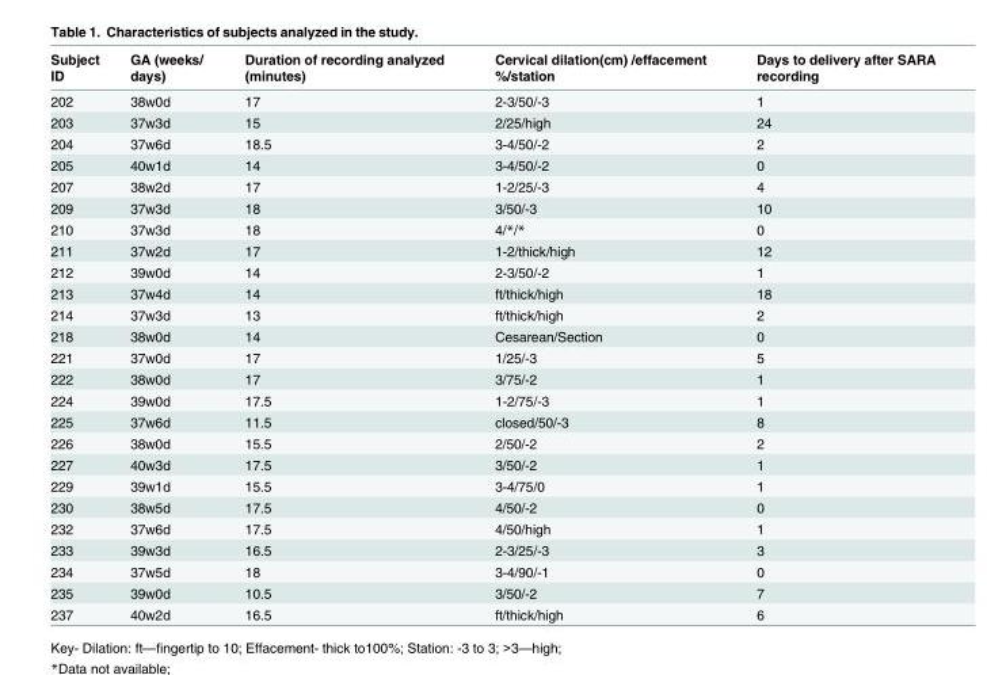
<table><thead><tr><td>Subject ID</td><td>GA (weeks/ days)</td><td>Duration of recording analyzed (minutes)</td><td>Cervical dilation(cm) /effacement %/station</td><td>Days to delivery after SARA recording</td></tr></thead><tbody><tr><td>202</td><td>38w0d</td><td>17</td><td>2-3/50/-3</td><td>1</td></tr><tr><td>203</td><td>37w3d</td><td>15</td><td>2/25/high</td><td>24</td></tr><tr><td>204</td><td>37w6d</td><td>18.5</td><td>3-4/50/-2</td><td>2</td></tr><tr><td>205</td><td>40w1d</td><td>14</td><td>3-4/50/-2</td><td>0</td></tr><tr><td>207</td><td>38w2d</td><td>17</td><td>1-2/25/-3</td><td>4</td></tr><tr><td>209</td><td>37w3d</td><td>18</td><td>3/50/-3</td><td>10</td></tr><tr><td>210</td><td>37w3d</td><td>18</td><td>4/*/*</td><td>0</td></tr><tr><td>211</td><td>37w2d</td><td>17</td><td>1-2/thick/high</td><td>12</td></tr><tr><td>212</td><td>39w0d</td><td>14</td><td>2-3/50/-2</td><td>1</td></tr><tr><td>213</td><td>37w4d</td><td>14</td><td>ft/thick/high</td><td>18</td></tr><tr><td>214</td><td>37w3d</td><td>13</td><td>ft/thick/high</td><td>2</td></tr><tr><td>218</td><td>38w0d</td><td>14</td><td>Cesarean/Section</td><td>0</td></tr><tr><td>221</td><td>37w0d</td><td>17</td><td>1/25/-3</td><td>5</td></tr><tr><td>222</td><td>38w0d</td><td>17</td><td>3/75/-2</td><td>1</td></tr><tr><td>224</td><td>39w0d</td><td>17.5</td><td>1-2/75/-3</td><td>1</td></tr><tr><td>225</td><td>37w6d</td><td>11.5</td><td>closed/50/-3</td><td>8</td></tr><tr><td>226</td><td>38w0d</td><td>15.5</td><td>2/50/-2</td><td>2</td></tr><tr><td>227</td><td>40w3d</td><td>17.5</td><td>3/50/-2</td><td>1</td></tr><tr><td>229</td><td>39w1d</td><td>15.5</td><td>3-4/75/0</td><td>1</td></tr><tr><td>230</td><td>38w5d</td><td>17.5</td><td>4/50/-2</td><td>0</td></tr><tr><td>232</td><td>37w6d</td><td>17.5</td><td>4/50/high</td><td>1</td></tr><tr><td>233</td><td>39w3d</td><td>16.5</td><td>2-3/25/-3</td><td>3</td></tr><tr><td>234</td><td>37w5d</td><td>18</td><td>3-4/90/-1</td><td>0</td></tr><tr><td>235</td><td>39w0d</td><td>10.5</td><td>3/50/-2</td><td>7</td></tr><tr><td>237</td><td>40w2d</td><td>16.5</td><td>ft/thick/high</td><td>6</td></tr></tbody></table>